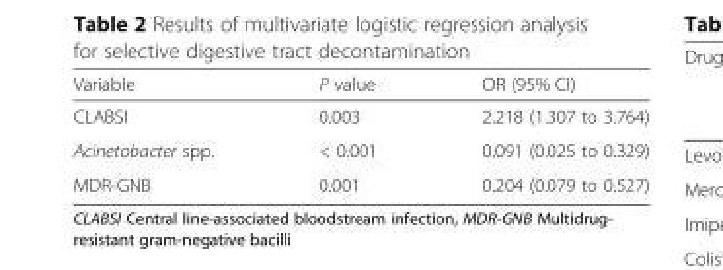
<table><thead><tr><td>Variable</td><td>P value</td><td>OR (95% CI)</td></tr></thead><tbody><tr><td>CLABSI</td><td>0.003</td><td>2.218 (1.307 to 3.764)</td></tr><tr><td>Acinetobacter spp.</td><td>&lt; 0.001</td><td>0.091 (0.025 to 0.329)</td></tr><tr><td>MDR-GNB</td><td>0.001</td><td>0.204 (0.079 to 0.527)</td></tr></tbody></table>